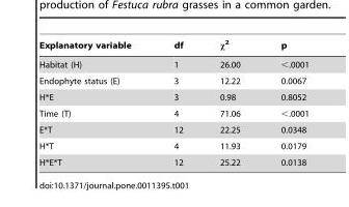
<table><thead><tr><td>Explanatory variable</td><td>df</td><td>χ<sup>2</sup></td><td>p</td></tr></thead><tbody><tr><td>Habitat (H)</td><td>1</td><td>26.00</td><td>&lt;.0001</td></tr><tr><td>Endophyte status (E)</td><td>3</td><td>12.22</td><td>0.0067</td></tr><tr><td>H*E</td><td>3</td><td>0.98</td><td>0.8052</td></tr><tr><td>Time (T)</td><td>4</td><td>71.06</td><td>&lt;.0001</td></tr><tr><td>E*T</td><td>12</td><td>22.25</td><td>0.0348</td></tr><tr><td>H*T</td><td>4</td><td>11.93</td><td>0.0179</td></tr><tr><td>H*E*T</td><td>12</td><td>25.22</td><td>0.0138</td></tr></tbody></table>